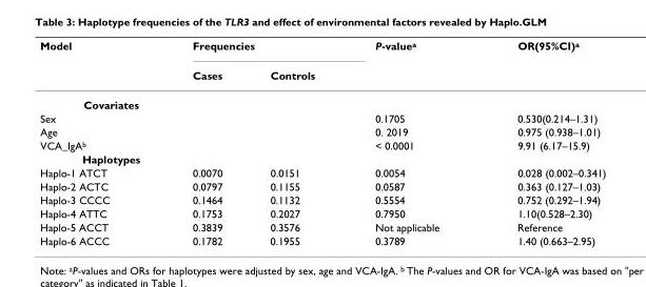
<table><thead><tr><td rowspan="2">Model</td><td colspan="2">Frequencies</td><td rowspan="2">P-value<sup>a</sup></td><td rowspan="2">OR(95%CI)<sup>a</sup></td></tr><tr><td>Cases</td><td>Controls</td></tr></thead><tbody><tr><td colspan="5">Covariates</td></tr><tr><td>Sex</td><td></td><td></td><td>0.1705</td><td>0.530(0.214–1.31)</td></tr><tr><td>Age</td><td></td><td></td><td>0. 2019</td><td>0.975 (0.938–1.01)</td></tr><tr><td>VCA_IgA<sup>b</sup></td><td></td><td></td><td>&lt; 0.0001</td><td>9.91 (6.17–15.9)</td></tr><tr><td colspan="5">Haplotypes</td></tr><tr><td>Haplo-1 ATCT</td><td>0.0070</td><td>0.0151</td><td>0.0054</td><td>0.028 (0.002–0.341)</td></tr><tr><td>Haplo-2 ACTC</td><td>0.0797</td><td>0.1155</td><td>0.0587</td><td>0.363 (0.127–1.03)</td></tr><tr><td>Haplo-3 CCCC</td><td>0.1464</td><td>0.1132</td><td>0.5554</td><td>0.752 (0.292–1.94)</td></tr><tr><td>Haplo-4 ATTC</td><td>0.1753</td><td>0.2027</td><td>0.7950</td><td>1.10(0.528–2.30)</td></tr><tr><td>Haplo-5 ACCT</td><td>0.3839</td><td>0.3576</td><td>Not applicable</td><td>Reference</td></tr><tr><td>Haplo-6 ACCC</td><td>0.1782</td><td>0.1955</td><td>0.3789</td><td>1.40 (0.663–2.95)</td></tr></tbody></table>